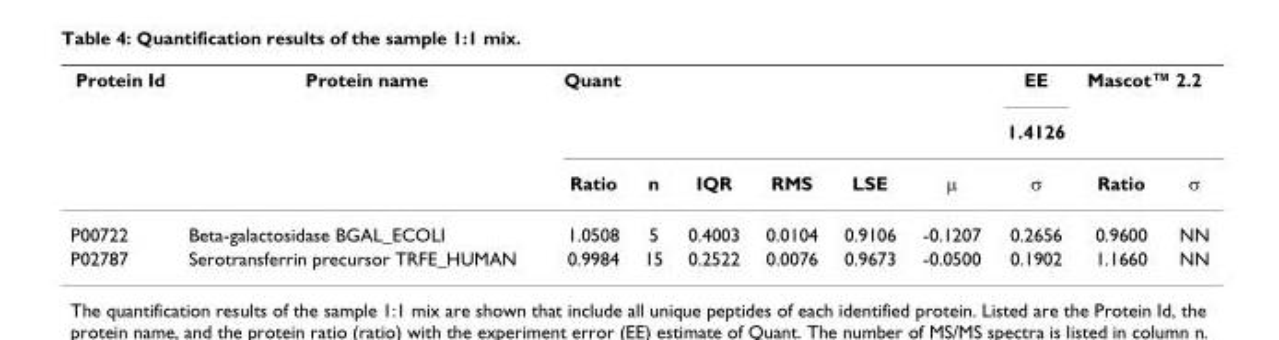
<table><thead><tr><td rowspan="3">Protein Id</td><td rowspan="3">Protein name</td><td colspan="6">Quant</td><td rowspan="3">EE 1.4126 σ</td><td colspan="2">Mascot™ 2.2</td></tr><tr><td rowspan="2">Ratio</td><td rowspan="2">n</td><td rowspan="2">IQR</td><td rowspan="2">RMS</td><td rowspan="2">LSE</td><td rowspan="2">μ</td><td rowspan="2">Ratio</td><td rowspan="2">σ</td></tr><tr></tr></thead><tbody><tr><td>P00722</td><td>Beta-galactosidase BGAL_ECOLI</td><td>1.0508</td><td>5</td><td>0.4003</td><td>0.0104</td><td>0.9106</td><td>-0.1207</td><td>0.2656</td><td>0.9600</td><td>NN</td></tr><tr><td>P02787</td><td>Serotransferrin precursor TRFE_HUMAN</td><td>0.9984</td><td>15</td><td>0.2522</td><td>0.0076</td><td>0.9673</td><td>-0.0500</td><td>0.1902</td><td>1.1660</td><td>NN</td></tr></tbody></table>